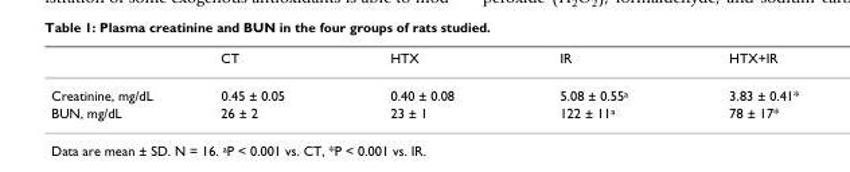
<table><thead><tr><td></td><td>CT</td><td>HTX</td><td>IR</td><td>HTX+IR</td></tr></thead><tbody><tr><td>Creatinine, mg/dL</td><td>0.45 ± 0.05</td><td>0.40 ± 0.08</td><td>5.08 ± 0.55a</td><td>3.83 ± 0.41*</td></tr><tr><td>BUN, mg/dL</td><td>26 ± 2</td><td>23 ± 1</td><td>122 ± 11a</td><td>78 ± 17*</td></tr></tbody></table>